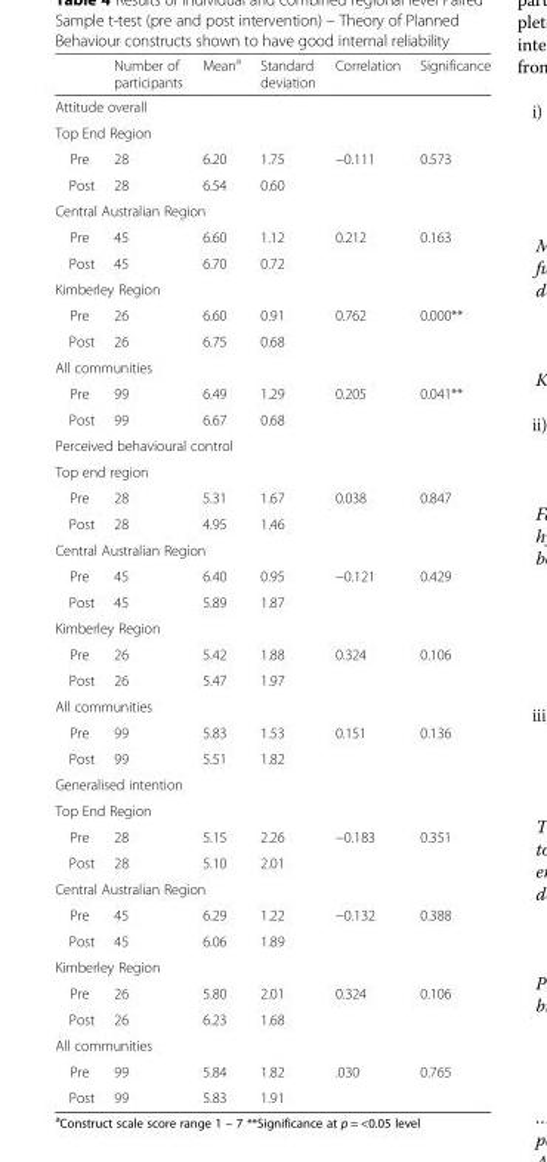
<table><thead><tr><td></td><td>Number of participants</td><td>Mean<sup>a</sup></td><td>Standard deviation</td><td>Correlation</td><td>Significance</td></tr></thead><tbody><tr><td colspan="6">Attitude overall</td></tr><tr><td colspan="6">Top End Region</td></tr><tr><td>Pre</td><td>28</td><td>6.20</td><td>1.75</td><td rowspan="2">−0.111</td><td rowspan="2">0.573</td></tr><tr><td>Post</td><td>28</td><td>6.54</td><td>0.60</td></tr><tr><td colspan="6">Central Australian Region</td></tr><tr><td>Pre</td><td>45</td><td>6.60</td><td>1.12</td><td rowspan="2">0.212</td><td rowspan="2">0.163</td></tr><tr><td>Post</td><td>45</td><td>6.70</td><td>0.72</td></tr><tr><td colspan="6">Kimberley Region</td></tr><tr><td>Pre</td><td>26</td><td>6.60</td><td>0.91</td><td rowspan="2">0.762</td><td rowspan="2">0.000**</td></tr><tr><td>Post</td><td>26</td><td>6.75</td><td>0.68</td></tr><tr><td colspan="6">All communities</td></tr><tr><td>Pre</td><td>99</td><td>6.49</td><td>1.29</td><td rowspan="2">0.205</td><td rowspan="2">0.041**</td></tr><tr><td>Post</td><td>99</td><td>6.67</td><td>0.68</td></tr><tr><td colspan="6">Perceived behavioural control</td></tr><tr><td colspan="6">Top end region</td></tr><tr><td>Pre</td><td>28</td><td>5.31</td><td>1.67</td><td rowspan="2">0.038</td><td rowspan="2">0.847</td></tr><tr><td>Post</td><td>28</td><td>4.95</td><td>1.46</td></tr><tr><td colspan="6">Central Australian Region</td></tr><tr><td>Pre</td><td>45</td><td>6.40</td><td>0.95</td><td rowspan="2">−0.121</td><td rowspan="2">0.429</td></tr><tr><td>Post</td><td>45</td><td>5.89</td><td>1.87</td></tr><tr><td colspan="6">Kimberley Region</td></tr><tr><td>Pre</td><td>26</td><td>5.42</td><td>1.88</td><td rowspan="2">0.324</td><td rowspan="2">0.106</td></tr><tr><td>Post</td><td>26</td><td>5.47</td><td>1.97</td></tr><tr><td colspan="6">All communities</td></tr><tr><td>Pre</td><td>99</td><td>5.83</td><td>1.53</td><td rowspan="2">0.151</td><td rowspan="2">0.136</td></tr><tr><td>Post</td><td>99</td><td>5.51</td><td>1.82</td></tr><tr><td colspan="6">Generalised intention</td></tr><tr><td colspan="6">Top End Region</td></tr><tr><td>Pre</td><td>28</td><td>5.15</td><td>2.26</td><td rowspan="2">−0.183</td><td rowspan="2">0.351</td></tr><tr><td>Post</td><td>28</td><td>5.10</td><td>2.01</td></tr><tr><td colspan="6">Central Australian Region</td></tr><tr><td>Pre</td><td>45</td><td>6.29</td><td>1.22</td><td rowspan="2">−0.132</td><td rowspan="2">0.388</td></tr><tr><td>Post</td><td>45</td><td>6.06</td><td>1.89</td></tr><tr><td colspan="6">Kimberley Region</td></tr><tr><td>Pre</td><td>26</td><td>5.80</td><td>2.01</td><td rowspan="2">0.324</td><td rowspan="2">0.106</td></tr><tr><td>Post</td><td>26</td><td>6.23</td><td>1.68</td></tr><tr><td colspan="6">All communities</td></tr><tr><td>Pre</td><td>99</td><td>5.84</td><td>1.82</td><td rowspan="2">.030</td><td rowspan="2">0.765</td></tr><tr><td>Post</td><td>99</td><td>5.83</td><td>1.91</td></tr></tbody></table>